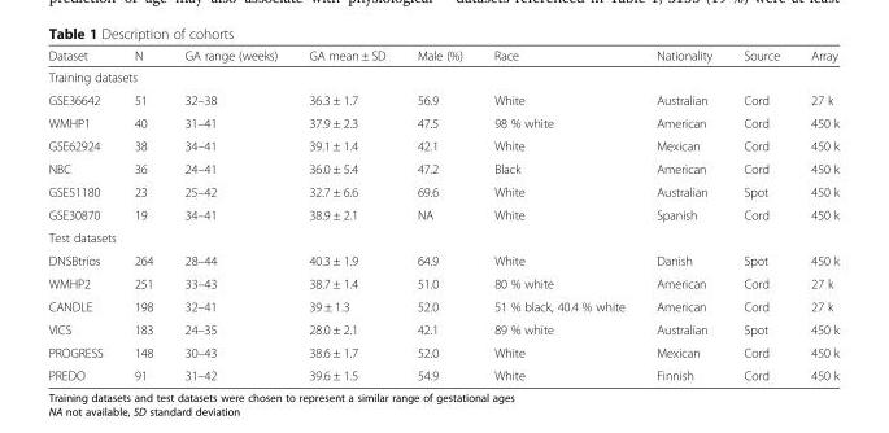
<table><thead><tr><td>Dataset</td><td>N</td><td>GA range (weeks)</td><td>GA mean ± SD</td><td>Male (%)</td><td>Race</td><td>Nationality</td><td>Source</td><td>Array</td></tr></thead><tbody><tr><td colspan="9">Training datasets</td></tr><tr><td>GSE36642</td><td>51</td><td>32–38</td><td>36.3 ± 1.7</td><td>56.9</td><td>White</td><td>Australian</td><td>Cord</td><td>27 k</td></tr><tr><td>WMHP1</td><td>40</td><td>31–41</td><td>37.9 ± 2.3</td><td>47.5</td><td>98 % white</td><td>American</td><td>Cord</td><td>450 k</td></tr><tr><td>GSE62924</td><td>38</td><td>34–41</td><td>39.1 ± 1.4</td><td>42.1</td><td>White</td><td>Mexican</td><td>Cord</td><td>450 k</td></tr><tr><td>NBC</td><td>36</td><td>24–41</td><td>36.0 ± 5.4</td><td>47.2</td><td>Black</td><td>American</td><td>Cord</td><td>450 k</td></tr><tr><td>GSE51180</td><td>23</td><td>25–42</td><td>32.7 ± 6.6</td><td>69.6</td><td>White</td><td>Australian</td><td>Spot</td><td>450 k</td></tr><tr><td>GSE30870</td><td>19</td><td>34–41</td><td>38.9 ± 2.1</td><td>NA</td><td>White</td><td>Spanish</td><td>Cord</td><td>450 k</td></tr><tr><td colspan="9">Test datasets</td></tr><tr><td>DNSBtrios</td><td>264</td><td>28–44</td><td>40.3 ± 1.9</td><td>64.9</td><td>White</td><td>Danish</td><td>Spot</td><td>450 k</td></tr><tr><td>WMHP2</td><td>251</td><td>33–43</td><td>38.7 ± 1.4</td><td>51.0</td><td>80 % white</td><td>American</td><td>Cord</td><td>27 k</td></tr><tr><td>CANDLE</td><td>198</td><td>32–41</td><td>39 ± 1.3</td><td>52.0</td><td>51 % black, 40.4 % white</td><td>American</td><td>Cord</td><td>27 k</td></tr><tr><td>VICS</td><td>183</td><td>24–35</td><td>28.0 ± 2.1</td><td>42.1</td><td>89 % white</td><td>Australian</td><td>Spot</td><td>450 k</td></tr><tr><td>PROGRESS</td><td>148</td><td>30–43</td><td>38.6 ± 1.7</td><td>52.0</td><td>White</td><td>Mexican</td><td>Cord</td><td>450 k</td></tr><tr><td>PREDO</td><td>91</td><td>31–42</td><td>39.6 ± 1.5</td><td>54.9</td><td>White</td><td>Finnish</td><td>Cord</td><td>450 k</td></tr></tbody></table>